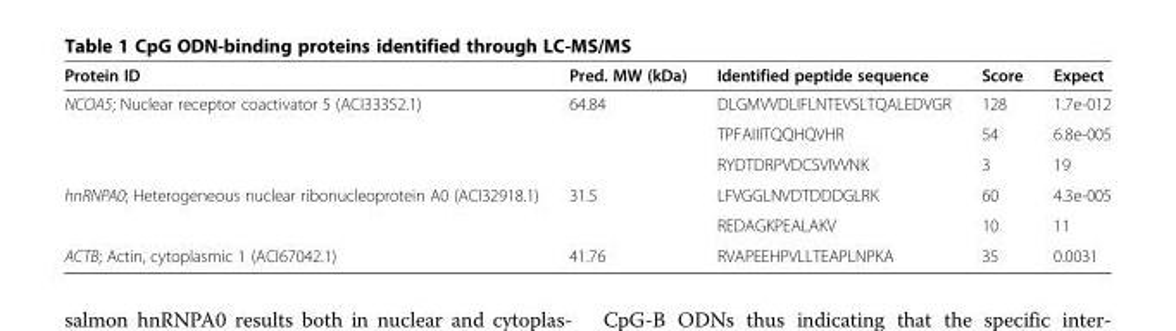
<table><thead><tr><td>Protein ID</td><td>Pred. MW (kDa)</td><td>Identified peptide sequence</td><td>Score</td><td>Expect</td></tr></thead><tbody><tr><td rowspan="3">NCOA5; Nuclear receptor coactivator 5 (ACI33352.1)</td><td>64.84</td><td>DLGMVVDLIFLNTEVSLTQALEDVGR</td><td>128</td><td>1.7e-012</td></tr><tr><td></td><td>TPFAIIITQQHQVHR</td><td>54</td><td>6.8e-005</td></tr><tr><td></td><td>RYDTDRPVDCSVIVVNK</td><td>3</td><td>19</td></tr><tr><td rowspan="2">hnRNPA0; Heterogeneous nuclear ribonucleoprotein A0 (ACI32918.1)</td><td>31.5</td><td>LFVGGLNVDTDDDGLRK</td><td>60</td><td>4.3e-005</td></tr><tr><td></td><td>REDAGKPEALAKV</td><td>10</td><td>11</td></tr><tr><td>ACTB; Actin, cytoplasmic 1 (ACI67042.1)</td><td>41.76</td><td>RVAPEEHPVLLTEAPLNPKA</td><td>35</td><td>0.0031</td></tr></tbody></table>